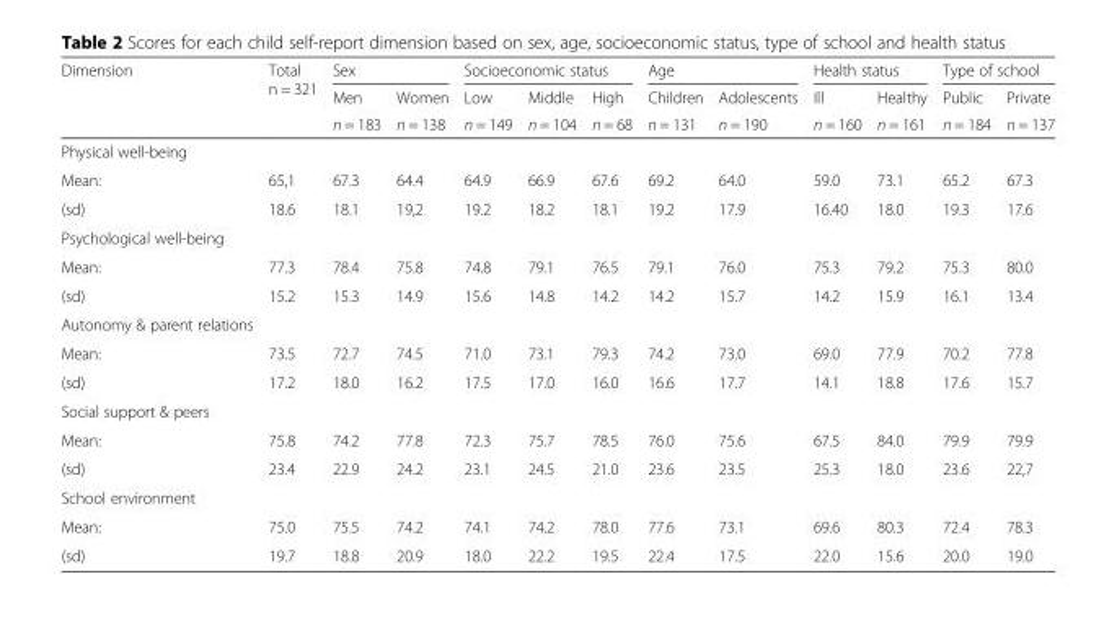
<table><thead><tr><td rowspan="3">Dimension</td><td rowspan="3">Total n = 321</td><td colspan="2">Sex</td><td colspan="3">Socioeconomic status</td><td colspan="2">Age</td><td colspan="2">Health status</td><td colspan="2">Type of school</td></tr><tr><td rowspan="2">Men n = 183</td><td rowspan="2">Women n = 138</td><td rowspan="2">Low n = 149</td><td rowspan="2">Middle n = 104</td><td rowspan="2">High n = 68</td><td rowspan="2">Children n = 131</td><td rowspan="2">Adolescents n = 190</td><td rowspan="2">Ill n = 160</td><td rowspan="2">Healthy n = 161</td><td rowspan="2">Public n = 184</td><td rowspan="2">Private n = 137</td></tr><tr></tr></thead><tbody><tr><td colspan="13">Physical well-being</td></tr><tr><td>Mean:</td><td>65,1</td><td>67.3</td><td>64.4</td><td>64.9</td><td>66.9</td><td>67.6</td><td>69.2</td><td>64.0</td><td>59.0</td><td>73.1</td><td>65.2</td><td>67.3</td></tr><tr><td>(sd)</td><td>18.6</td><td>18.1</td><td>19,2</td><td>19.2</td><td>18.2</td><td>18.1</td><td>19.2</td><td>17.9</td><td>16.40</td><td>18.0</td><td>19.3</td><td>17.6</td></tr><tr><td colspan="13">Psychological well-being</td></tr><tr><td>Mean:</td><td>77.3</td><td>78.4</td><td>75.8</td><td>74.8</td><td>79.1</td><td>76.5</td><td>79.1</td><td>76.0</td><td>75.3</td><td>79.2</td><td>75.3</td><td>80.0</td></tr><tr><td>(sd)</td><td>15.2</td><td>15.3</td><td>14.9</td><td>15.6</td><td>14.8</td><td>14.2</td><td>14.2</td><td>15.7</td><td>14.2</td><td>15.9</td><td>16.1</td><td>13.4</td></tr><tr><td colspan="13">Autonomy &amp; parent relations</td></tr><tr><td>Mean:</td><td>73.5</td><td>72.7</td><td>74.5</td><td>71.0</td><td>73.1</td><td>79.3</td><td>74.2</td><td>73.0</td><td>69.0</td><td>77.9</td><td>70.2</td><td>77.8</td></tr><tr><td>(sd)</td><td>17.2</td><td>18.0</td><td>16.2</td><td>17.5</td><td>17.0</td><td>16.0</td><td>16.6</td><td>17.7</td><td>14.1</td><td>18.8</td><td>17.6</td><td>15.7</td></tr><tr><td colspan="13">Social support &amp; peers</td></tr><tr><td>Mean:</td><td>75.8</td><td>74.2</td><td>77.8</td><td>72.3</td><td>75.7</td><td>78.5</td><td>76.0</td><td>75.6</td><td>67.5</td><td>84.0</td><td>79.9</td><td>79.9</td></tr><tr><td>(sd)</td><td>23.4</td><td>22.9</td><td>24.2</td><td>23.1</td><td>24.5</td><td>21.0</td><td>23.6</td><td>23.5</td><td>25.3</td><td>18.0</td><td>23.6</td><td>22,7</td></tr><tr><td colspan="13">School environment</td></tr><tr><td>Mean:</td><td>75.0</td><td>75.5</td><td>74.2</td><td>74.1</td><td>74.2</td><td>78.0</td><td>77.6</td><td>73.1</td><td>69.6</td><td>80.3</td><td>72.4</td><td>78.3</td></tr><tr><td>(sd)</td><td>19.7</td><td>18.8</td><td>20.9</td><td>18.0</td><td>22.2</td><td>19.5</td><td>22.4</td><td>17.5</td><td>22.0</td><td>15.6</td><td>20.0</td><td>19.0</td></tr></tbody></table>